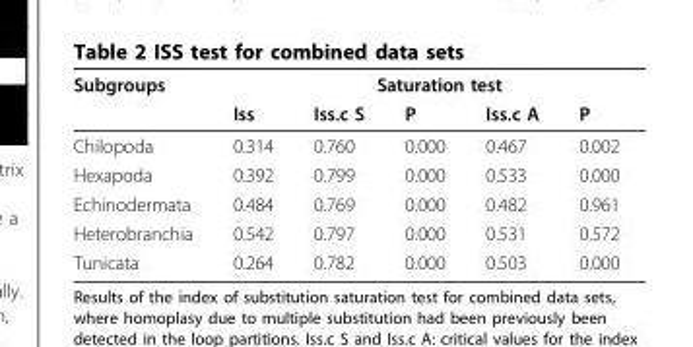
<table><thead><tr><td rowspan="2">Subgroups</td><td colspan="5">Saturation test</td></tr><tr><td>Iss</td><td>Iss.c S</td><td>P</td><td>Iss.c A</td><td>P</td></tr></thead><tbody><tr><td>Chilopoda</td><td>0.314</td><td>0.760</td><td>0.000</td><td>0.467</td><td>0.002</td></tr><tr><td>Hexapoda</td><td>0.392</td><td>0.799</td><td>0.000</td><td>0.533</td><td>0.000</td></tr><tr><td>Echinodermata</td><td>0.484</td><td>0.769</td><td>0.000</td><td>0.482</td><td>0.961</td></tr><tr><td>Heterobranchia</td><td>0.542</td><td>0.797</td><td>0.000</td><td>0.531</td><td>0.572</td></tr><tr><td>Tunicata</td><td>0.264</td><td>0.782</td><td>0.000</td><td>0.503</td><td>0.000</td></tr></tbody></table>